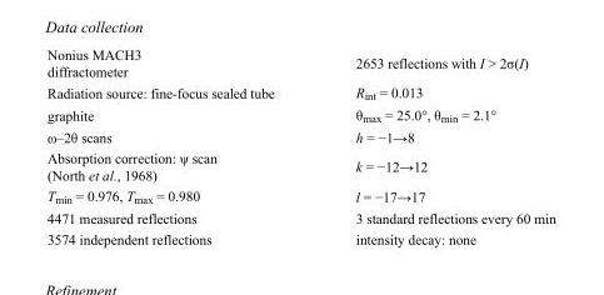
<table><tbody><tr><td>Nonius MACH3 diffractometer</td><td>2653 reflections with I &gt; 2σ(I)</td></tr><tr><td>Radiation source: fine-focus sealed tube</td><td>R<sub>int</sub> = 0.013</td></tr><tr><td>graphite</td><td>θ<sub>max</sub> = 25.0°, θ<sub>min</sub> = 2.1°</td></tr><tr><td>ω–2θ scans</td><td>h = −1→8</td></tr><tr><td>Absorption correction: ψ scan (North et al., 1968)</td><td>k = −12→12</td></tr><tr><td>T<sub>min</sub> = 0.976, T<sub>max</sub> = 0.980</td><td>l = −17→17</td></tr><tr><td>4471 measured reflections</td><td>3 standard reflections every 60 min</td></tr><tr><td>3574 independent reflections</td><td>intensity decay: none</td></tr></tbody></table>